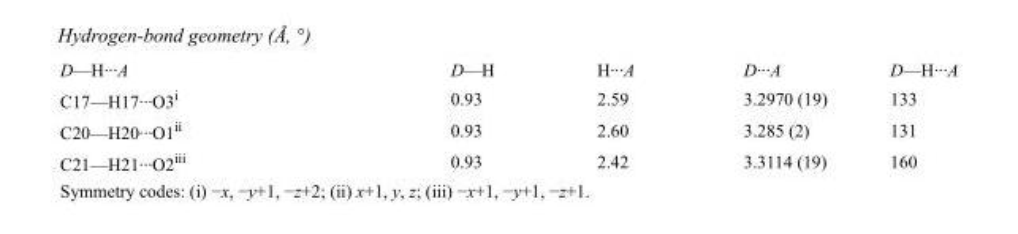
<table><tbody><tr><td>D—H···A</td><td>D—H</td><td>H···A</td><td>D···A</td><td>D—H···A</td></tr><tr><td>C17—H17···O3<sup>i</sup></td><td>0.93</td><td>2.59</td><td>3.2970 (19)</td><td>133</td></tr><tr><td>C20—H20···O1<sup>ii</sup></td><td>0.93</td><td>2.60</td><td>3.285 (2)</td><td>131</td></tr><tr><td>C21—H21···O2<sup>iii</sup></td><td>0.93</td><td>2.42</td><td>3.3114 (19)</td><td>160</td></tr></tbody></table>